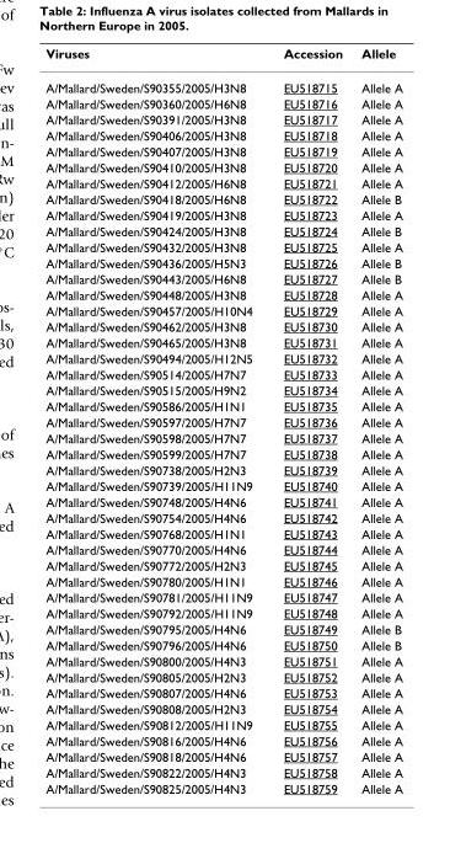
<table><thead><tr><td>Viruses</td><td>Accession</td><td>Allele</td></tr></thead><tbody><tr><td>A/Mallard/Sweden/S90355/2005/H3N8</td><td>EU518715</td><td>Allele A</td></tr><tr><td>A/Mallard/Sweden/S90360/2005/H6N8</td><td>EU518716</td><td>Allele A</td></tr><tr><td>A/Mallard/Sweden/S90391/2005/H3N8</td><td>EU518717</td><td>Allele A</td></tr><tr><td>A/Mallard/Sweden/S90406/2005/H3N8</td><td>EU518718</td><td>Allele A</td></tr><tr><td>A/Mallard/Sweden/S90407/2005/H3N8</td><td>EU518719</td><td>Allele A</td></tr><tr><td>A/Mallard/Sweden/S90410/2005/H3N8</td><td>EU518720</td><td>Allele A</td></tr><tr><td>A/Mallard/Sweden/S90412/2005/H6N8</td><td>EU518721</td><td>Allele A</td></tr><tr><td>A/Mallard/Sweden/S90418/2005/H6N8</td><td>EU518722</td><td>Allele B</td></tr><tr><td>A/Mallard/Sweden/S90419/2005/H3N8</td><td>EU518723</td><td>Allele A</td></tr><tr><td>A/Mallard/Sweden/S90424/2005/H3N8</td><td>EU518724</td><td>Allele B</td></tr><tr><td>A/Mallard/Sweden/S90432/2005/H3N8</td><td>EU518725</td><td>Allele A</td></tr><tr><td>A/Mallard/Sweden/S90436/2005/H5N3</td><td>EU518726</td><td>Allele B</td></tr><tr><td>A/Mallard/Sweden/S90443/2005/H6N8</td><td>EU518727</td><td>Allele B</td></tr><tr><td>A/Mallard/Sweden/S90448/2005/H3N8</td><td>EU518728</td><td>Allele A</td></tr><tr><td>A/Mallard/Sweden/S90457/2005/H10N4</td><td>EU518729</td><td>Allele A</td></tr><tr><td>A/Mallard/Sweden/S90462/2005/H3N8</td><td>EU518730</td><td>Allele A</td></tr><tr><td>A/Mallard/Sweden/S90465/2005/H3N8</td><td>EU518731</td><td>Allele A</td></tr><tr><td>A/Mallard/Sweden/S90494/2005/H12N5</td><td>EU518732</td><td>Allele A</td></tr><tr><td>A/Mallard/Sweden/S90514/2005/H7N7</td><td>EU518733</td><td>Allele A</td></tr><tr><td>A/Mallard/Sweden/S90515/2005/H9N2</td><td>EU518734</td><td>Allele A</td></tr><tr><td>A/Mallard/Sweden/S90586/2005/H1N1</td><td>EU518735</td><td>Allele A</td></tr><tr><td>A/Mallard/Sweden/S90597/2005/H7N7</td><td>EU518736</td><td>Allele A</td></tr><tr><td>A/Mallard/Sweden/S90598/2005/H7N7</td><td>EU518737</td><td>Allele A</td></tr><tr><td>A/Mallard/Sweden/S90599/2005/H7N7</td><td>EU518738</td><td>Allele A</td></tr><tr><td>A/Mallard/Sweden/S90738/2005/H2N3</td><td>EU518739</td><td>Allele A</td></tr><tr><td>A/Mallard/Sweden/S90739/2005/H11N9</td><td>EU518740</td><td>Allele A</td></tr><tr><td>A/Mallard/Sweden/S90748/2005/H4N6</td><td>EU518741</td><td>Allele A</td></tr><tr><td>A/Mallard/Sweden/S90754/2005/H4N6</td><td>EU518742</td><td>Allele A</td></tr><tr><td>A/Mallard/Sweden/S90768/2005/H1N1</td><td>EU518743</td><td>Allele A</td></tr><tr><td>A/Mallard/Sweden/S90770/2005/H4N6</td><td>EU518744</td><td>Allele A</td></tr><tr><td>A/Mallard/Sweden/S90772/2005/H2N3</td><td>EU518745</td><td>Allele A</td></tr><tr><td>A/Mallard/Sweden/S90780/2005/H1N1</td><td>EU518746</td><td>Allele A</td></tr><tr><td>A/Mallard/Sweden/S90781/2005/H11N9</td><td>EU518747</td><td>Allele A</td></tr><tr><td>A/Mallard/Sweden/S90792/2005/H11N9</td><td>EU518748</td><td>Allele A</td></tr><tr><td>A/Mallard/Sweden/S90795/2005/H4N6</td><td>EU518749</td><td>Allele B</td></tr><tr><td>A/Mallard/Sweden/S90796/2005/H4N6</td><td>EU518750</td><td>Allele B</td></tr><tr><td>A/Mallard/Sweden/S90800/2005/H4N3</td><td>EU518751</td><td>Allele A</td></tr><tr><td>A/Mallard/Sweden/S90805/2005/H2N3</td><td>EU518752</td><td>Allele A</td></tr><tr><td>A/Mallard/Sweden/S90807/2005/H4N6</td><td>EU518753</td><td>Allele A</td></tr><tr><td>A/Mallard/Sweden/S90808/2005/H2N3</td><td>EU518754</td><td>Allele A</td></tr><tr><td>A/Mallard/Sweden/S90812/2005/H11N9</td><td>EU518755</td><td>Allele A</td></tr><tr><td>A/Mallard/Sweden/S90816/2005/H4N6</td><td>EU518756</td><td>Allele A</td></tr><tr><td>A/Mallard/Sweden/S90818/2005/H4N6</td><td>EU518757</td><td>Allele A</td></tr><tr><td>A/Mallard/Sweden/S90822/2005/H4N3</td><td>EU518758</td><td>Allele A</td></tr><tr><td>A/Mallard/Sweden/S90825/2005/H4N3</td><td>EU518759</td><td>Allele A</td></tr></tbody></table>